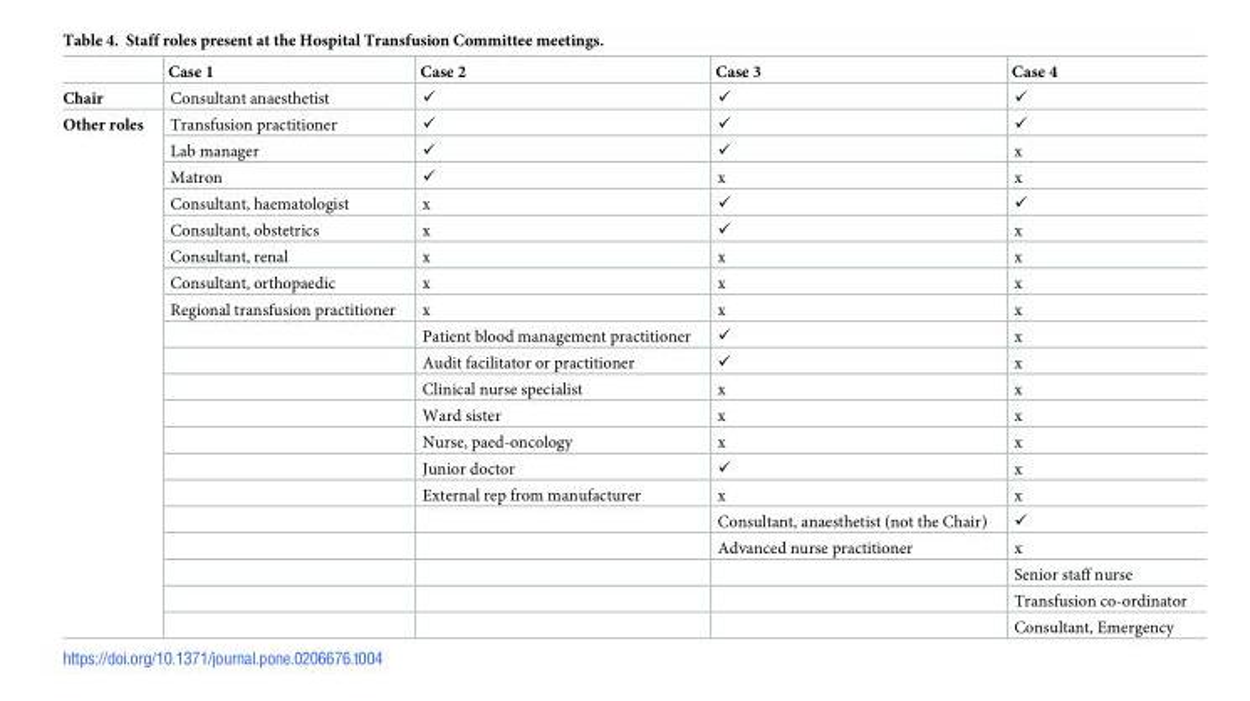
<table><thead><tr><td></td><td>Case 1</td><td>Case 2</td><td>Case 3</td><td>Case 4</td></tr></thead><tbody><tr><td>Chair</td><td>Consultant anaesthetist</td><td>✓</td><td>✓</td><td>✓</td></tr><tr><td rowspan="20">Other roles</td><td>Transfusion practitioner</td><td>✓</td><td>✓</td><td>✓</td></tr><tr><td>Lab manager</td><td>✓</td><td>✓</td><td>x</td></tr><tr><td>Matron</td><td>✓</td><td>x</td><td>x</td></tr><tr><td>Consultant, haematologist</td><td>x</td><td>✓</td><td>✓</td></tr><tr><td>Consultant, obstetrics</td><td>x</td><td>✓</td><td>x</td></tr><tr><td>Consultant, renal</td><td>x</td><td>x</td><td>x</td></tr><tr><td>Consultant, orthopaedic</td><td>x</td><td>x</td><td>x</td></tr><tr><td>Regional transfusion practitioner</td><td>x</td><td>x</td><td>x</td></tr><tr><td></td><td>Patient blood management practitioner</td><td>✓</td><td>x</td></tr><tr><td></td><td>Audit facilitator or practitioner</td><td>✓</td><td>x</td></tr><tr><td></td><td>Clinical nurse specialist</td><td>x</td><td>x</td></tr><tr><td></td><td>Ward sister</td><td>x</td><td>x</td></tr><tr><td></td><td>Nurse, paed-oncology</td><td>x</td><td>x</td></tr><tr><td></td><td>Junior doctor</td><td>✓</td><td>x</td></tr><tr><td></td><td>External rep from manufacturer</td><td>x</td><td>x</td></tr><tr><td></td><td></td><td>Consultant, anaesthetist (not the Chair)</td><td>✓</td></tr><tr><td></td><td></td><td>Advanced nurse practitioner</td><td>x</td></tr><tr><td></td><td></td><td></td><td>Senior staff nurse</td></tr><tr><td></td><td></td><td></td><td>Transfusion co-ordinator</td></tr><tr><td></td><td></td><td></td><td>Consultant, Emergency</td></tr></tbody></table>